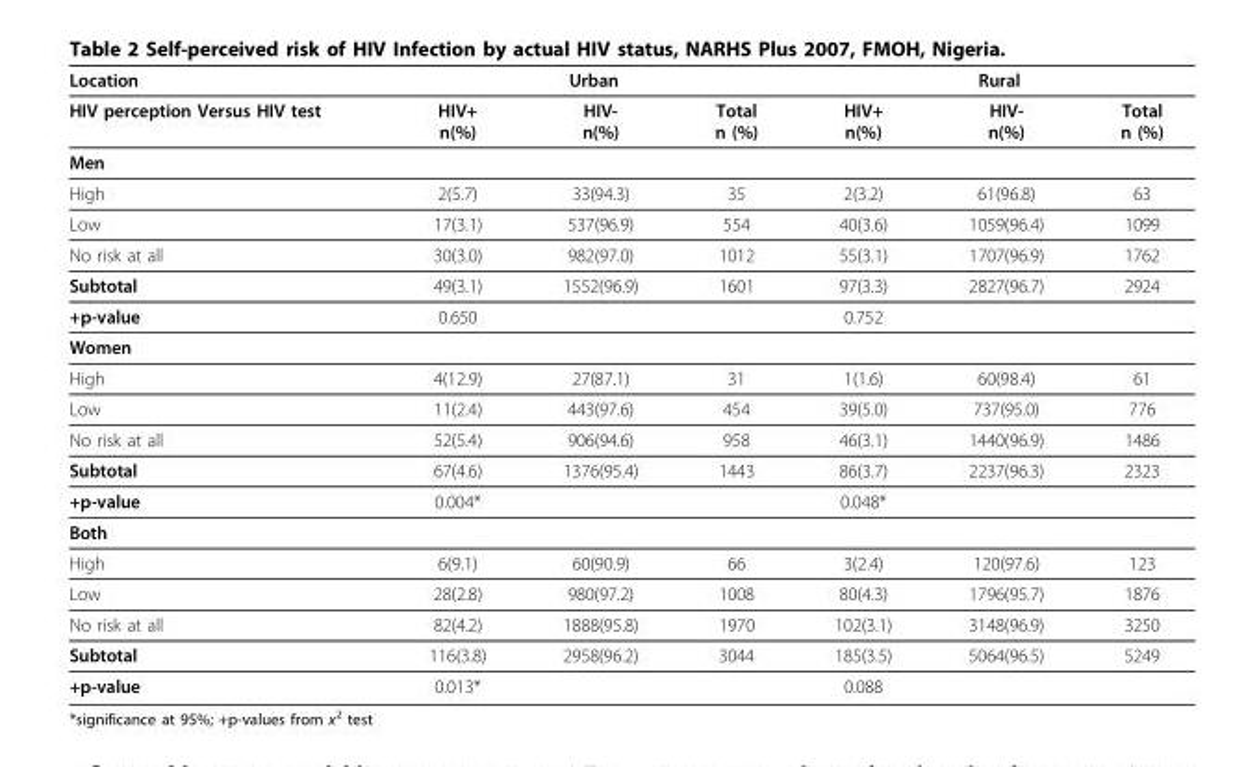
<table><thead><tr><td rowspan="2">Location HIV perception Versus HIV test</td><td colspan="3">Urban</td><td colspan="3">Rural</td></tr><tr><td>HIV+ n(%)</td><td>HIV- n(%)</td><td>Total n (%)</td><td>HIV+ n(%)</td><td>HIV- n(%)</td><td>Total n (%)</td></tr></thead><tbody><tr><td colspan="7">Men</td></tr><tr><td>High</td><td>2(5.7)</td><td>33(94.3)</td><td>35</td><td>2(3.2)</td><td>61(96.8)</td><td>63</td></tr><tr><td>Low</td><td>17(3.1)</td><td>537(96.9)</td><td>554</td><td>40(3.6)</td><td>1059(96.4)</td><td>1099</td></tr><tr><td>No risk at all</td><td>30(3.0)</td><td>982(97.0)</td><td>1012</td><td>55(3.1)</td><td>1707(96.9)</td><td>1762</td></tr><tr><td>Subtotal</td><td>49(3.1)</td><td>1552(96.9)</td><td>1601</td><td>97(3.3)</td><td>2827(96.7)</td><td>2924</td></tr><tr><td>+p-value</td><td>0.650</td><td></td><td></td><td>0.752</td><td></td><td></td></tr><tr><td colspan="7">Women</td></tr><tr><td>High</td><td>4(12.9)</td><td>27(87.1)</td><td>31</td><td>1(1.6)</td><td>60(98.4)</td><td>61</td></tr><tr><td>Low</td><td>11(2.4)</td><td>443(97.6)</td><td>454</td><td>39(5.0)</td><td>737(95.0)</td><td>776</td></tr><tr><td>No risk at all</td><td>52(5.4)</td><td>906(94.6)</td><td>958</td><td>46(3.1)</td><td>1440(96.9)</td><td>1486</td></tr><tr><td>Subtotal</td><td>67(4.6)</td><td>1376(95.4)</td><td>1443</td><td>86(3.7)</td><td>2237(96.3)</td><td>2323</td></tr><tr><td>+p-value</td><td>0.004*</td><td></td><td></td><td>0.048*</td><td></td><td></td></tr><tr><td colspan="7">Both</td></tr><tr><td>High</td><td>6(9.1)</td><td>60(90.9)</td><td>66</td><td>3(2.4)</td><td>120(97.6)</td><td>123</td></tr><tr><td>Low</td><td>28(2.8)</td><td>980(97.2)</td><td>1008</td><td>80(4.3)</td><td>1796(95.7)</td><td>1876</td></tr><tr><td>No risk at all</td><td>82(4.2)</td><td>1888(95.8)</td><td>1970</td><td>102(3.1)</td><td>3148(96.9)</td><td>3250</td></tr><tr><td>Subtotal</td><td>116(3.8)</td><td>2958(96.2)</td><td>3044</td><td>185(3.5)</td><td>5064(96.5)</td><td>5249</td></tr><tr><td>+p-value</td><td>0.013*</td><td></td><td></td><td>0.088</td><td></td><td></td></tr></tbody></table>